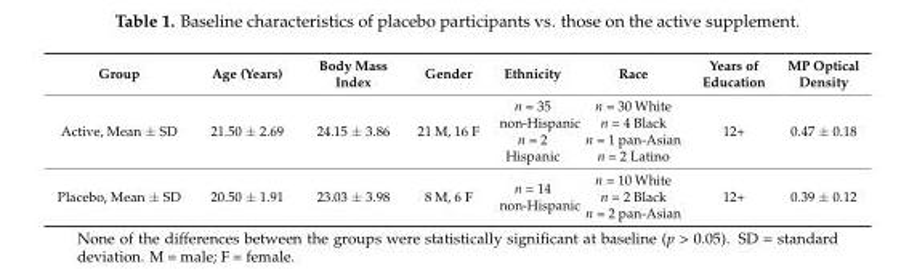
<table><thead><tr><td>Group</td><td>Age (Years)</td><td>Body Mass Index</td><td>Gender</td><td>Ethnicity</td><td>Race</td><td>Years of Education</td><td>MP Optical Density</td></tr></thead><tbody><tr><td>Active, Mean ± SD</td><td>21.50 ± 2.69</td><td>24.15 ± 3.86</td><td>21 M, 16 F</td><td>n = 35 non-Hispanic n = 2 Hispanic</td><td>n = 30 White n = 4 Black n = 1 pan-Asian n = 2 Latino</td><td>12+</td><td>0.47 ± 0.18</td></tr><tr><td>Placebo, Mean ± SD</td><td>20.50 ± 1.91</td><td>23.03 ± 3.98</td><td>8 M, 6 F</td><td>n = 14 non-Hispanic</td><td>n = 10 White n = 2 Black n = 2 pan-Asian</td><td>12+</td><td>0.39 ± 0.12</td></tr></tbody></table>